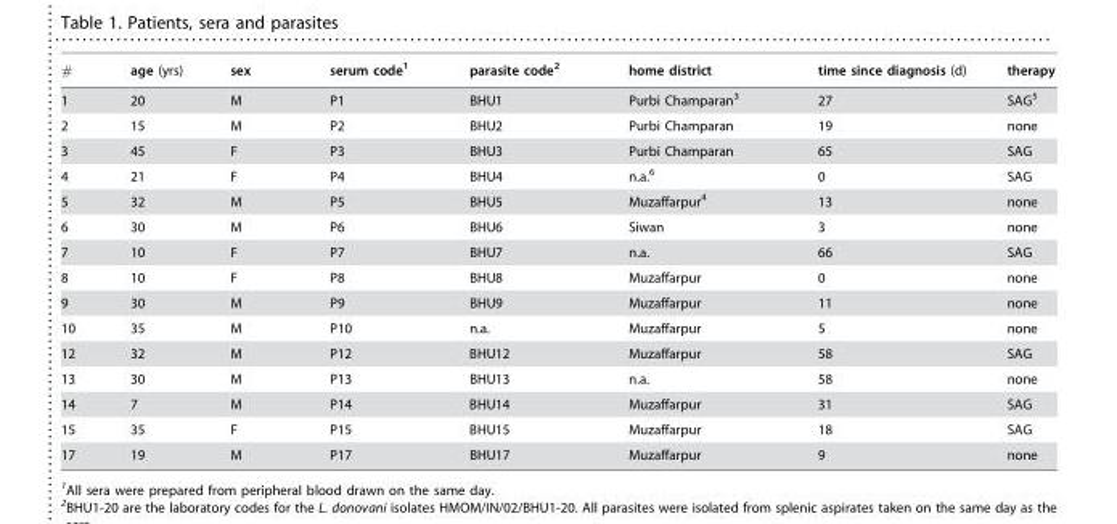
<table><thead><tr><td>#</td><td>age (yrs)</td><td>sex</td><td>serum code<sup>1</sup></td><td>parasite code<sup>2</sup></td><td>home district</td><td>time since diagnosis (d)</td><td>therapy</td></tr></thead><tbody><tr><td>1</td><td>20</td><td>M</td><td>P1</td><td>BHU1</td><td>Purbi Champaran<sup>3</sup></td><td>27</td><td>SAG<sup>5</sup></td></tr><tr><td>2</td><td>15</td><td>M</td><td>P2</td><td>BHU2</td><td>Purbi Champaran</td><td>19</td><td>none</td></tr><tr><td>3</td><td>45</td><td>F</td><td>P3</td><td>BHU3</td><td>Purbi Champaran</td><td>65</td><td>SAG</td></tr><tr><td>4</td><td>21</td><td>F</td><td>P4</td><td>BHU4</td><td>n.a.<sup>6</sup></td><td>0</td><td>SAG</td></tr><tr><td>5</td><td>32</td><td>M</td><td>P5</td><td>BHU5</td><td>Muzaffarpur<sup>4</sup></td><td>13</td><td>none</td></tr><tr><td>6</td><td>30</td><td>M</td><td>P6</td><td>BHU6</td><td>Siwan</td><td>3</td><td>none</td></tr><tr><td>7</td><td>10</td><td>F</td><td>P7</td><td>BHU7</td><td>n.a.</td><td>66</td><td>SAG</td></tr><tr><td>8</td><td>10</td><td>F</td><td>P8</td><td>BHU8</td><td>Muzaffarpur</td><td>0</td><td>none</td></tr><tr><td>9</td><td>30</td><td>M</td><td>P9</td><td>BHU9</td><td>Muzaffarpur</td><td>11</td><td>none</td></tr><tr><td>10</td><td>35</td><td>M</td><td>P10</td><td>n.a.</td><td>Muzaffarpur</td><td>5</td><td>none</td></tr><tr><td>12</td><td>32</td><td>M</td><td>P12</td><td>BHU12</td><td>Muzaffarpur</td><td>58</td><td>SAG</td></tr><tr><td>13</td><td>30</td><td>M</td><td>P13</td><td>BHU13</td><td>n.a.</td><td>58</td><td>none</td></tr><tr><td>14</td><td>7</td><td>M</td><td>P14</td><td>BHU14</td><td>Muzaffarpur</td><td>31</td><td>SAG</td></tr><tr><td>15</td><td>35</td><td>F</td><td>P15</td><td>BHU15</td><td>Muzaffarpur</td><td>18</td><td>SAG</td></tr><tr><td>17</td><td>19</td><td>M</td><td>P17</td><td>BHU17</td><td>Muzaffarpur</td><td>9</td><td>none</td></tr></tbody></table>